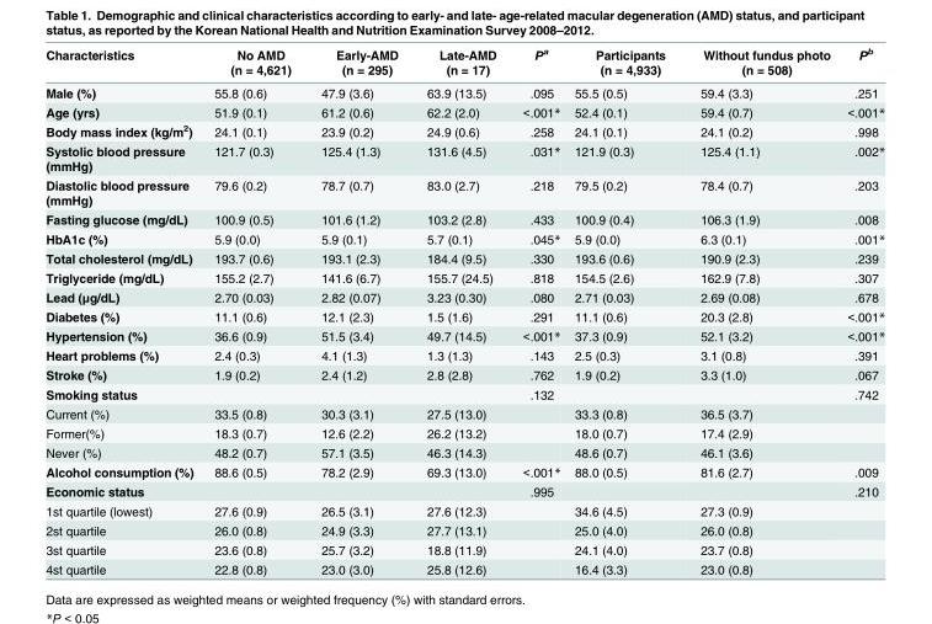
<table><thead><tr><td>Characteristics</td><td>No AMD (n = 4,621)</td><td>Early-AMD (n = 295)</td><td>Late-AMD (n = 17)</td><td>P<sup>a</sup></td><td>Participants (n = 4,933)</td><td>Without fundus photo (n = 508)</td><td>P<sup>b</sup></td></tr></thead><tbody><tr><td>Male (%)</td><td>55.8 (0.6)</td><td>47.9 (3.6)</td><td>63.9 (13.5)</td><td>.095</td><td>55.5 (0.5)</td><td>59.4 (3.3)</td><td>.251</td></tr><tr><td>Age (yrs)</td><td>51.9 (0.1)</td><td>61.2 (0.6)</td><td>62.2 (2.0)</td><td>&lt;.001*</td><td>52.4 (0.1)</td><td>59.4 (0.7)</td><td>&lt;.001*</td></tr><tr><td>Body mass index (kg/m<sup>2</sup>)</td><td>24.1 (0.1)</td><td>23.9 (0.2)</td><td>24.9 (0.6)</td><td>.258</td><td>24.1 (0.1)</td><td>24.1 (0.2)</td><td>.998</td></tr><tr><td>Systolic blood pressure (mmHg)</td><td>121.7 (0.3)</td><td>125.4 (1.3)</td><td>131.6 (4.5)</td><td>.031*</td><td>121.9 (0.3)</td><td>125.4 (1.1)</td><td>.002*</td></tr><tr><td>Diastolic blood pressure (mmHg)</td><td>79.6 (0.2)</td><td>78.7 (0.7)</td><td>83.0 (2.7)</td><td>.218</td><td>79.5 (0.2)</td><td>78.4 (0.7)</td><td>.203</td></tr><tr><td>Fasting glucose (mg/dL)</td><td>100.9 (0.5)</td><td>101.6 (1.2)</td><td>103.2 (2.8)</td><td>.433</td><td>100.9 (0.4)</td><td>106.3 (1.9)</td><td>.008</td></tr><tr><td>HbA1c (%)</td><td>5.9 (0.0)</td><td>5.9 (0.1)</td><td>5.7 (0.1)</td><td>.045*</td><td>5.9 (0.0)</td><td>6.3 (0.1)</td><td>.001*</td></tr><tr><td>Total cholesterol (mg/dL)</td><td>193.7 (0.6)</td><td>193.1 (2.3)</td><td>184.4 (9.5)</td><td>.330</td><td>193.6 (0.6)</td><td>190.9 (2.3)</td><td>.239</td></tr><tr><td>Triglyceride (mg/dL)</td><td>155.2 (2.7)</td><td>141.6 (6.7)</td><td>155.7 (24.5)</td><td>.818</td><td>154.5 (2.6)</td><td>162.9 (7.8)</td><td>.307</td></tr><tr><td>Lead (μg/dL)</td><td>2.70 (0.03)</td><td>2.82 (0.07)</td><td>3.23 (0.30)</td><td>.080</td><td>2.71 (0.03)</td><td>2.69 (0.08)</td><td>.678</td></tr><tr><td>Diabetes (%)</td><td>11.1 (0.6)</td><td>12.1 (2.3)</td><td>1.5 (1.6)</td><td>.291</td><td>11.1 (0.6)</td><td>20.3 (2.8)</td><td>&lt;.001*</td></tr><tr><td>Hypertension (%)</td><td>36.6 (0.9)</td><td>51.5 (3.4)</td><td>49.7 (14.5)</td><td>&lt;.001*</td><td>37.3 (0.9)</td><td>52.1 (3.2)</td><td>&lt;.001*</td></tr><tr><td>Heart problems (%)</td><td>2.4 (0.3)</td><td>4.1 (1.3)</td><td>1.3 (1.3)</td><td>.143</td><td>2.5 (0.3)</td><td>3.1 (0.8)</td><td>.391</td></tr><tr><td>Stroke (%)</td><td>1.9 (0.2)</td><td>2.4 (1.2)</td><td>2.8 (2.8)</td><td>.762</td><td>1.9 (0.2)</td><td>3.3 (1.0)</td><td>.067</td></tr><tr><td>Smoking status</td><td></td><td></td><td></td><td>.132</td><td></td><td></td><td>.742</td></tr><tr><td>Current (%)</td><td>33.5 (0.8)</td><td>30.3 (3.1)</td><td>27.5 (13.0)</td><td></td><td>33.3 (0.8)</td><td>36.5 (3.7)</td><td></td></tr><tr><td>Former(%)</td><td>18.3 (0.7)</td><td>12.6 (2.2)</td><td>26.2 (13.2)</td><td></td><td>18.0 (0.7)</td><td>17.4 (2.9)</td><td></td></tr><tr><td>Never (%)</td><td>48.2 (0.7)</td><td>57.1 (3.5)</td><td>46.3 (14.3)</td><td></td><td>48.6 (0.7)</td><td>46.1 (3.6)</td><td></td></tr><tr><td>Alcohol consumption (%)</td><td>88.6 (0.5)</td><td>78.2 (2.9)</td><td>69.3 (13.0)</td><td>&lt;.001*</td><td>88.0 (0.5)</td><td>81.6 (2.7)</td><td>.009</td></tr><tr><td>Economic status</td><td></td><td></td><td></td><td>.995</td><td></td><td></td><td>.210</td></tr><tr><td>1st quartile (lowest)</td><td>27.6 (0.9)</td><td>26.5 (3.1)</td><td>27.6 (12.3)</td><td></td><td>34.6 (4.5)</td><td>27.3 (0.9)</td><td></td></tr><tr><td>2st quartile</td><td>26.0 (0.8)</td><td>24.9 (3.3)</td><td>27.7 (13.1)</td><td></td><td>25.0 (4.0)</td><td>26.0 (0.8)</td><td></td></tr><tr><td>3st quartile</td><td>23.6 (0.8)</td><td>25.7 (3.2)</td><td>18.8 (11.9)</td><td></td><td>24.1 (4.0)</td><td>23.7 (0.8)</td><td></td></tr><tr><td>4st quartile</td><td>22.8 (0.8)</td><td>23.0 (3.0)</td><td>25.8 (12.6)</td><td></td><td>16.4 (3.3)</td><td>23.0 (0.8)</td><td></td></tr></tbody></table>